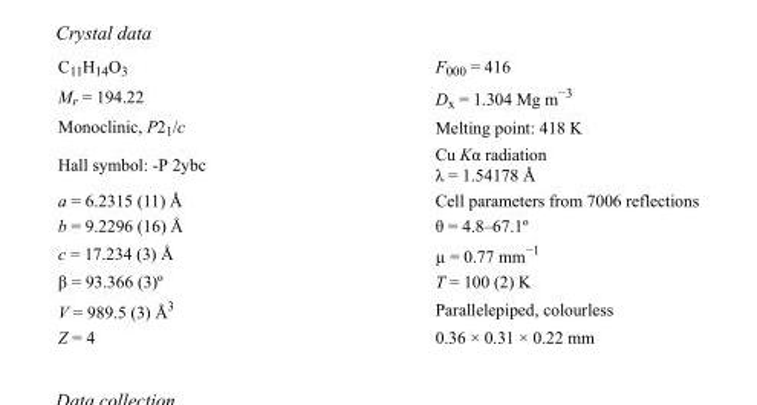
<table><tbody><tr><td>C<sub>11</sub>H<sub>14</sub>O<sub>3</sub></td><td>F<sub>000</sub> = 416</td></tr><tr><td>M<sub>r</sub> = 194.22</td><td>D<sub>x</sub> = 1.304 Mg m<sup>−3</sup></td></tr><tr><td>Monoclinic, P2<sub>1</sub>/c</td><td>Melting point: 418 K</td></tr><tr><td>Hall symbol: -P 2ybc</td><td>Cu Kα radiation λ = 1.54178 Å</td></tr><tr><td>a = 6.2315 (11) Å</td><td>Cell parameters from 7006 reflections</td></tr><tr><td>b = 9.2296 (16) Å</td><td>θ = 4.8–67.1º</td></tr><tr><td>c = 17.234 (3) Å</td><td>µ = 0.77 mm<sup>−1</sup></td></tr><tr><td>β = 93.366 (3)º</td><td>T = 100 (2) K</td></tr><tr><td>V = 989.5 (3) Å<sup>3</sup></td><td>Parallelepiped, colourless</td></tr><tr><td>Z = 4</td><td>0.36 × 0.31 × 0.22 mm</td></tr></tbody></table>